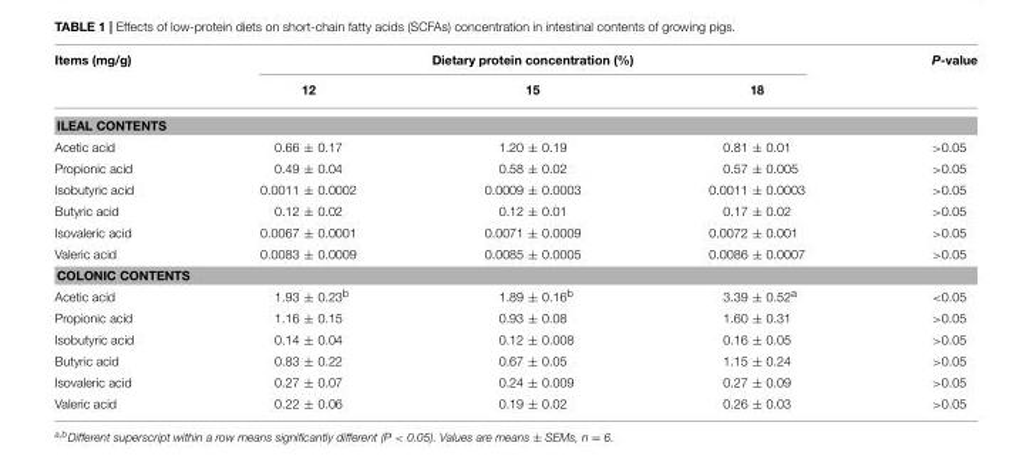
<table><thead><tr><td rowspan="2">Items (mg/g)</td><td colspan="3">Dietary protein concentration (%)</td><td rowspan="2">P-value</td></tr><tr><td>12</td><td>15</td><td>18</td></tr></thead><tbody><tr><td colspan="5">ILEAL CONTENTS</td></tr><tr><td>Acetic acid</td><td>0.66 ± 0.17</td><td>1.20 ± 0.19</td><td>0.81 ± 0.01</td><td>&gt;0.05</td></tr><tr><td>Propionic acid</td><td>0.49 ± 0.04</td><td>0.58 ± 0.02</td><td>0.57 ± 0.005</td><td>&gt;0.05</td></tr><tr><td>Isobutyric acid</td><td>0.0011 ± 0.0002</td><td>0.0009 ± 0.0003</td><td>0.0011 ± 0.0003</td><td>&gt;0.05</td></tr><tr><td>Butyric acid</td><td>0.12 ± 0.02</td><td>0.12 ± 0.01</td><td>0.17 ± 0.02</td><td>&gt;0.05</td></tr><tr><td>Isovaleric acid</td><td>0.0067 ± 0.0001</td><td>0.0071 ± 0.0009</td><td>0.0072 ± 0.001</td><td>&gt;0.05</td></tr><tr><td>Valeric acid</td><td>0.0083 ± 0.0009</td><td>0.0085 ± 0.0005</td><td>0.0086 ± 0.0007</td><td>&gt;0.05</td></tr><tr><td colspan="5">COLONIC CONTENTS</td></tr><tr><td>Acetic acid</td><td>1.93 ± 0.23<sup>b</sup></td><td>1.89 ± 0.16<sup>b</sup></td><td>3.39 ± 0.52<sup>a</sup></td><td>&lt;0.05</td></tr><tr><td>Propionic acid</td><td>1.16 ± 0.15</td><td>0.93 ± 0.08</td><td>1.60 ± 0.31</td><td>&gt;0.05</td></tr><tr><td>Isobutyric acid</td><td>0.14 ± 0.04</td><td>0.12 ± 0.008</td><td>0.16 ± 0.05</td><td>&gt;0.05</td></tr><tr><td>Butyric acid</td><td>0.83 ± 0.22</td><td>0.67 ± 0.05</td><td>1.15 ± 0.24</td><td>&gt;0.05</td></tr><tr><td>Isovaleric acid</td><td>0.27 ± 0.07</td><td>0.24 ± 0.009</td><td>0.27 ± 0.09</td><td>&gt;0.05</td></tr><tr><td>Valeric acid</td><td>0.22 ± 0.06</td><td>0.19 ± 0.02</td><td>0.26 ± 0.03</td><td>&gt;0.05</td></tr></tbody></table>